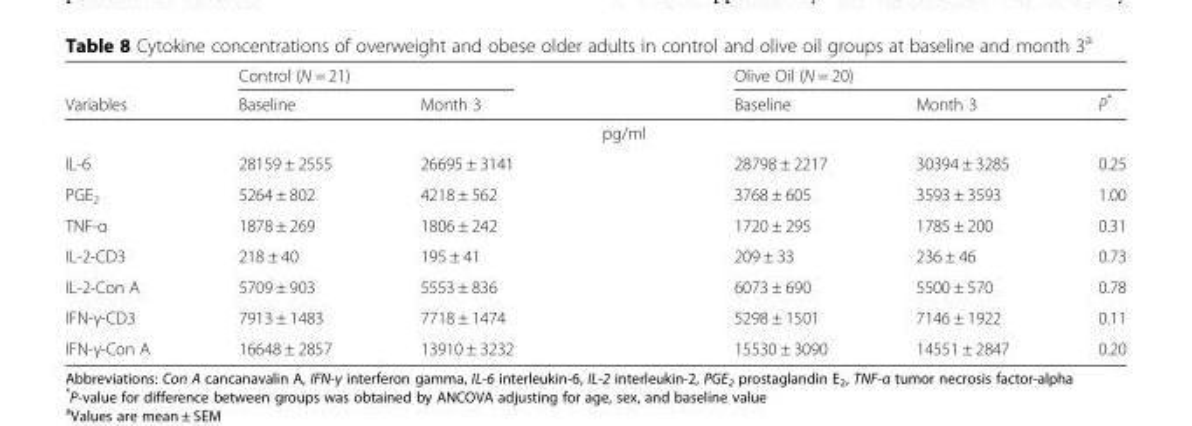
<table><thead><tr><td rowspan="2">Variables</td><td colspan="2">Control (N = 21)</td><td rowspan="2"></td><td colspan="3">Olive Oil (N = 20)</td></tr><tr><td>Baseline</td><td>Month 3</td><td>Baseline</td><td>Month 3</td><td>P*</td></tr></thead><tbody><tr><td></td><td></td><td></td><td>pg/ml</td><td></td><td></td><td></td></tr><tr><td>IL-6</td><td>28159 ± 2555</td><td>26695 ± 3141</td><td></td><td>28798 ± 2217</td><td>30394 ± 3285</td><td>0.25</td></tr><tr><td>PGE<sub>2</sub></td><td>5264 ± 802</td><td>4218 ± 562</td><td></td><td>3768 ± 605</td><td>3593 ± 3593</td><td>1.00</td></tr><tr><td>TNF-α</td><td>1878 ± 269</td><td>1806 ± 242</td><td></td><td>1720 ± 295</td><td>1785 ± 200</td><td>0.31</td></tr><tr><td>IL-2-CD3</td><td>218 ± 40</td><td>195 ± 41</td><td></td><td>209 ± 33</td><td>236 ± 46</td><td>0.73</td></tr><tr><td>IL-2-Con A</td><td>5709 ± 903</td><td>5553 ± 836</td><td></td><td>6073 ± 690</td><td>5500 ± 570</td><td>0.78</td></tr><tr><td>IFN-γ-CD3</td><td>7913 ± 1483</td><td>7718 ± 1474</td><td></td><td>5298 ± 1501</td><td>7146 ± 1922</td><td>0.11</td></tr><tr><td>IFN-γ-Con A</td><td>16648 ± 2857</td><td>13910 ± 3232</td><td></td><td>15530 ± 3090</td><td>14551 ± 2847</td><td>0.20</td></tr></tbody></table>